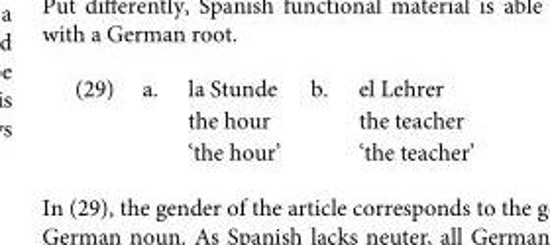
<table><tbody><tr><td rowspan="3">(29)</td><td>a.</td><td>la Stunde</td><td>b.</td><td>el Lehrer</td></tr><tr><td></td><td>the hour</td><td></td><td>the teacher</td></tr><tr><td></td><td>‘the hour’</td><td></td><td>‘the teacher’</td></tr></tbody></table>